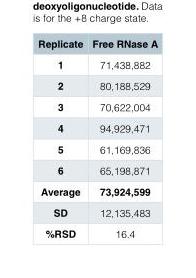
<table><thead><tr><td>Replicate</td><td>Free RNase A</td></tr></thead><tbody><tr><td>1</td><td>71,438,882</td></tr><tr><td>2</td><td>80,188,529</td></tr><tr><td>3</td><td>70,622,004</td></tr><tr><td>4</td><td>94,929,471</td></tr><tr><td>5</td><td>61,169,836</td></tr><tr><td>6</td><td>65,198,871</td></tr><tr><td>Average</td><td>73,924,599</td></tr><tr><td>SD</td><td>12,135,483</td></tr><tr><td>%RSD</td><td>16.4</td></tr></tbody></table>